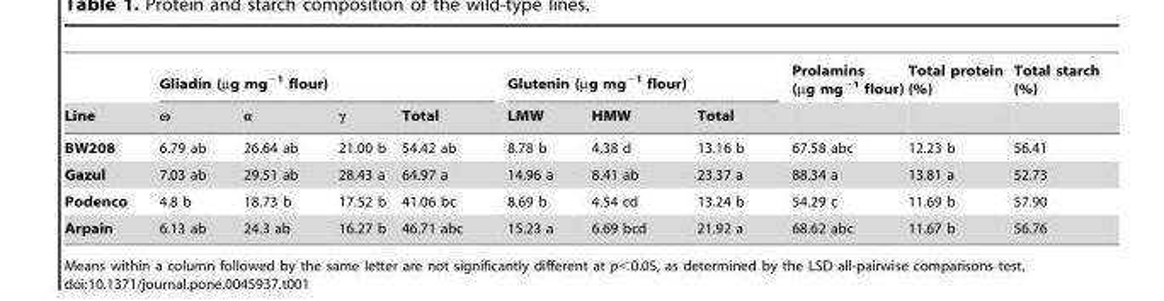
<table><thead><tr><td rowspan="2">Line</td><td colspan="4">Gliadin (µg mg<sup>−1</sup> flour)</td><td colspan="3">Glutenin (µg mg<sup>−1</sup> flour)</td><td rowspan="2">Prolamins (µg mg<sup>−1</sup> flour)</td><td rowspan="2">Total protein (%)</td><td rowspan="2">Total starch (%)</td></tr><tr><td>ω</td><td>α</td><td>γ</td><td>Total</td><td>LMW</td><td>HMW</td><td>Total</td></tr></thead><tbody><tr><td>BW208</td><td>6.79 ab</td><td>26.64 ab</td><td>21.00 b</td><td>54.42 ab</td><td>8.78 b</td><td>4.38 d</td><td>13.16 b</td><td>67.58 abc</td><td>12.23 b</td><td>56.41</td></tr><tr><td>Gazul</td><td>7.03 ab</td><td>29.51 ab</td><td>28.43 a</td><td>64.97 a</td><td>14.96 a</td><td>8.41 ab</td><td>23.37 a</td><td>88.34 a</td><td>13.81 a</td><td>52.73</td></tr><tr><td>Podenco</td><td>4.8 b</td><td>18.73 b</td><td>17.52 b</td><td>41.06 bc</td><td>8.69 b</td><td>4.54 cd</td><td>13.24 b</td><td>54.29 c</td><td>11.69 b</td><td>57.90</td></tr><tr><td>Arpain</td><td>6.13 ab</td><td>24.3 ab</td><td>16.27 b</td><td>46.71 abc</td><td>15.23 a</td><td>6.69 bcd</td><td>21.92 a</td><td>68.62 abc</td><td>11.67 b</td><td>56.76</td></tr></tbody></table>